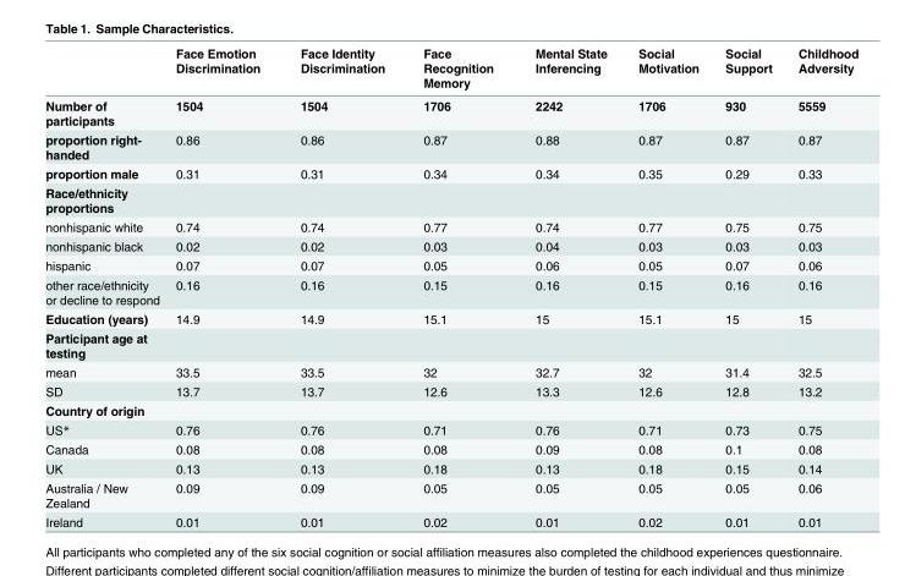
<table><thead><tr><td></td><td>Face Emotion Discrimination</td><td>Face Identity Discrimination</td><td>Face Recognition Memory</td><td>Mental State Inferencing</td><td>Social Motivation</td><td>Social Support</td><td>Childhood Adversity</td></tr></thead><tbody><tr><td>Number of participants</td><td>1504</td><td>1504</td><td>1706</td><td>2242</td><td>1706</td><td>930</td><td>5559</td></tr><tr><td>proportion right- handed</td><td>0.86</td><td>0.86</td><td>0.87</td><td>0.88</td><td>0.87</td><td>0.87</td><td>0.87</td></tr><tr><td>proportion male</td><td>0.31</td><td>0.31</td><td>0.34</td><td>0.34</td><td>0.35</td><td>0.29</td><td>0.33</td></tr><tr><td colspan="8">Race/ethnicity proportions</td></tr><tr><td>nonhispanic white</td><td>0.74</td><td>0.74</td><td>0.77</td><td>0.74</td><td>0.77</td><td>0.75</td><td>0.75</td></tr><tr><td>nonhispanic black</td><td>0.02</td><td>0.02</td><td>0.03</td><td>0.04</td><td>0.03</td><td>0.03</td><td>0.03</td></tr><tr><td>hispanic</td><td>0.07</td><td>0.07</td><td>0.05</td><td>0.06</td><td>0.05</td><td>0.07</td><td>0.06</td></tr><tr><td>other race/ethnicity or decline to respond</td><td>0.16</td><td>0.16</td><td>0.15</td><td>0.16</td><td>0.15</td><td>0.16</td><td>0.16</td></tr><tr><td>Education (years)</td><td>14.9</td><td>14.9</td><td>15.1</td><td>15</td><td>15.1</td><td>15</td><td>15</td></tr><tr><td colspan="8">Participant age at testing</td></tr><tr><td>mean</td><td>33.5</td><td>33.5</td><td>32</td><td>32.7</td><td>32</td><td>31.4</td><td>32.5</td></tr><tr><td>SD</td><td>13.7</td><td>13.7</td><td>12.6</td><td>13.3</td><td>12.6</td><td>12.8</td><td>13.2</td></tr><tr><td colspan="8">Country of origin</td></tr><tr><td>US*</td><td>0.76</td><td>0.76</td><td>0.71</td><td>0.76</td><td>0.71</td><td>0.73</td><td>0.75</td></tr><tr><td>Canada</td><td>0.08</td><td>0.08</td><td>0.08</td><td>0.09</td><td>0.08</td><td>0.1</td><td>0.08</td></tr><tr><td>UK</td><td>0.13</td><td>0.13</td><td>0.18</td><td>0.13</td><td>0.18</td><td>0.15</td><td>0.14</td></tr><tr><td>Australia / New Zealand</td><td>0.09</td><td>0.09</td><td>0.05</td><td>0.05</td><td>0.05</td><td>0.05</td><td>0.06</td></tr><tr><td>Ireland</td><td>0.01</td><td>0.01</td><td>0.02</td><td>0.01</td><td>0.02</td><td>0.01</td><td>0.01</td></tr></tbody></table>